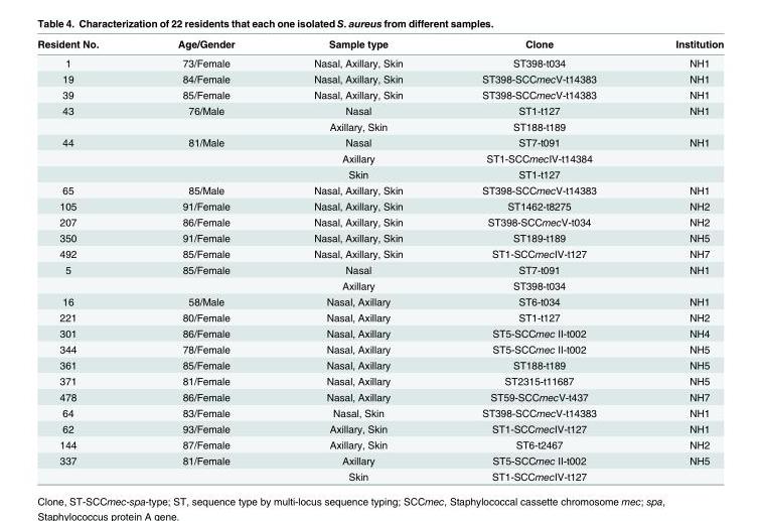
<table><thead><tr><td>Resident No.</td><td>Age/Gender</td><td>Sample type</td><td>Clone</td><td>Institution</td></tr></thead><tbody><tr><td>1</td><td>73/Female</td><td>Nasal, Axillary, Skin</td><td>ST398-t034</td><td>NH1</td></tr><tr><td>19</td><td>84/Female</td><td>Nasal, Axillary, Skin</td><td>ST398-SCCmecV-t14383</td><td>NH1</td></tr><tr><td>39</td><td>85/Female</td><td>Nasal, Axillary, Skin</td><td>ST398-SCCmecV-t14383</td><td>NH1</td></tr><tr><td rowspan="2">43</td><td>76/Male</td><td>Nasal</td><td>ST1-t127</td><td>NH1</td></tr><tr><td></td><td>Axillary, Skin</td><td>ST188-t189</td><td></td></tr><tr><td rowspan="3">44</td><td>81/Male</td><td>Nasal</td><td>ST7-t091</td><td>NH1</td></tr><tr><td></td><td>Axillary</td><td>ST1-SCCmecIV-t14384</td><td></td></tr><tr><td></td><td>Skin</td><td>ST1-t127</td><td></td></tr><tr><td>65</td><td>85/Male</td><td>Nasal, Axillary, Skin</td><td>ST398-SCCmecV-t14383</td><td>NH1</td></tr><tr><td>105</td><td>91/Female</td><td>Nasal, Axillary, Skin</td><td>ST1462-t8275</td><td>NH2</td></tr><tr><td>207</td><td>86/Female</td><td>Nasal, Axillary, Skin</td><td>ST398-SCCmecV-t034</td><td>NH2</td></tr><tr><td>350</td><td>91/Female</td><td>Nasal, Axillary, Skin</td><td>ST189-t189</td><td>NH5</td></tr><tr><td>492</td><td>85/Female</td><td>Nasal, Axillary, Skin</td><td>ST1-SCCmecIV-t127</td><td>NH7</td></tr><tr><td rowspan="2">5</td><td>85/Female</td><td>Nasal</td><td>ST7-t091</td><td>NH1</td></tr><tr><td></td><td>Axillary</td><td>ST398-t034</td><td></td></tr><tr><td>16</td><td>58/Male</td><td>Nasal, Axillary</td><td>ST6-t034</td><td>NH1</td></tr><tr><td>221</td><td>80/Female</td><td>Nasal, Axillary</td><td>ST1-t127</td><td>NH2</td></tr><tr><td>301</td><td>86/Female</td><td>Nasal, Axillary</td><td>ST5-SCCmec II-t002</td><td>NH4</td></tr><tr><td>344</td><td>78/Female</td><td>Nasal, Axillary</td><td>ST5-SCCmec II-t002</td><td>NH5</td></tr><tr><td>361</td><td>85/Female</td><td>Nasal, Axillary</td><td>ST188-t189</td><td>NH5</td></tr><tr><td>371</td><td>81/Female</td><td>Nasal, Axillary</td><td>ST2315-t11687</td><td>NH5</td></tr><tr><td>478</td><td>86/Female</td><td>Nasal, Axillary</td><td>ST59-SCCmecV-t437</td><td>NH7</td></tr><tr><td>64</td><td>83/Female</td><td>Nasal, Skin</td><td>ST398-SCCmecV-t14383</td><td>NH1</td></tr><tr><td>62</td><td>93/Female</td><td>Axillary, Skin</td><td>ST1-SCCmecIV-t127</td><td>NH1</td></tr><tr><td>144</td><td>87/Female</td><td>Axillary, Skin</td><td>ST6-t2467</td><td>NH2</td></tr><tr><td rowspan="2">337</td><td>81/Female</td><td>Axillary</td><td>ST5-SCCmec II-t002</td><td>NH5</td></tr><tr><td></td><td>Skin</td><td>ST1-SCCmecIV-t127</td><td></td></tr></tbody></table>